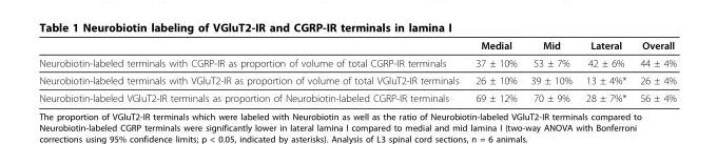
<table><thead><tr><td></td><td>Medial</td><td>Mid</td><td>Lateral</td><td>Overall</td></tr></thead><tbody><tr><td>Neurobiotin-labeled terminals with CGRP-IR as proportion of volume of total CGRP-IR terminals</td><td>37 ± 10%</td><td>53 ± 7%</td><td>42 ± 6%</td><td>44 ± 4%</td></tr><tr><td>Neurobiotin-labeled terminals with VGluT2-IR as proportion of volume of total VGluT2-IR terminals</td><td>26 ± 10%</td><td>39 ± 10%</td><td>13 ± 4%*</td><td>26 ± 4%</td></tr><tr><td>Neurobiotin-labeled VGluT2-IR terminals as proportion of Neurobiotin-labeled CGRP-IR terminals</td><td>69 ± 12%</td><td>70 ± 9%</td><td>28 ± 7%*</td><td>56 ± 4%</td></tr></tbody></table>